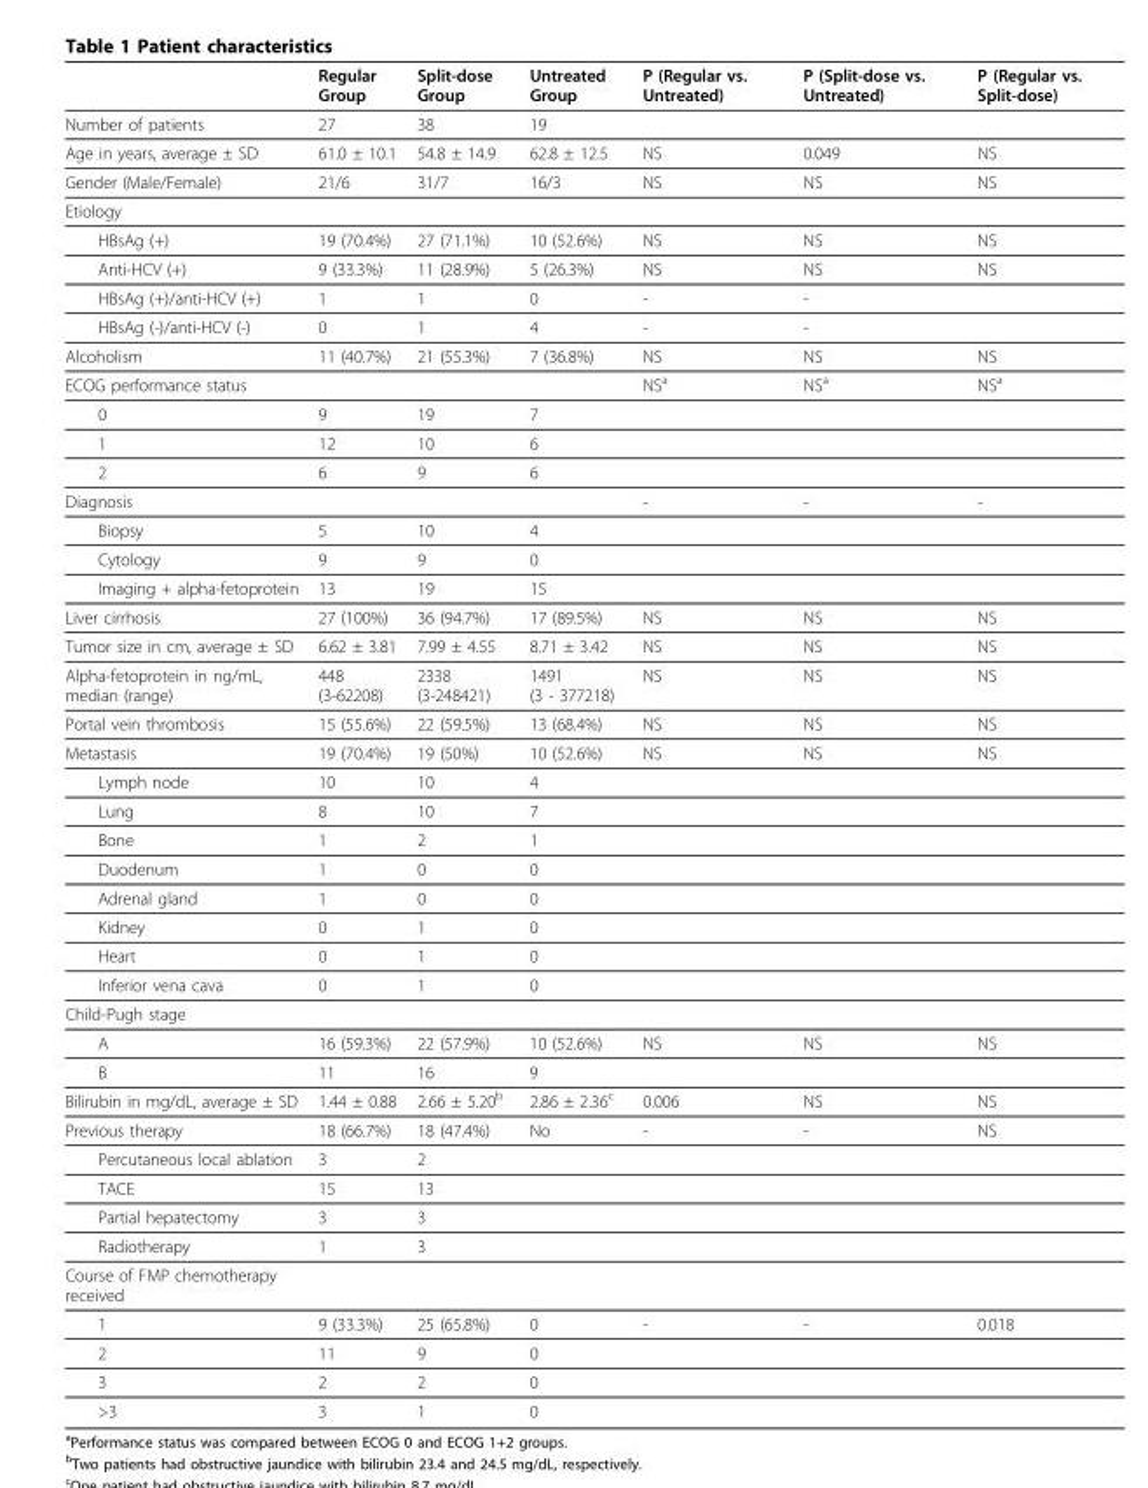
<table><thead><tr><td></td><td>Regular Group</td><td>Split-dose Group</td><td>Untreated Group</td><td>P (Regular vs. Untreated)</td><td>P (Split-dose vs. Untreated)</td><td>P (Regular vs. Split-dose)</td></tr></thead><tbody><tr><td>Number of patients</td><td>27</td><td>38</td><td>19</td><td></td><td></td><td></td></tr><tr><td>Age in years, average ± SD</td><td>61.0 ± 10.1</td><td>54.8 ± 14.9</td><td>62.8 ± 12.5</td><td>NS</td><td>0.049</td><td>NS</td></tr><tr><td>Gender (Male/Female)</td><td>21/6</td><td>31/7</td><td>16/3</td><td>NS</td><td>NS</td><td>NS</td></tr><tr><td colspan="7">Etiology</td></tr><tr><td>HBsAg (+)</td><td>19 (70.4%)</td><td>27 (71.1%)</td><td>10 (52.6%)</td><td>NS</td><td>NS</td><td>NS</td></tr><tr><td>Anti-HCV (+)</td><td>9 (33.3%)</td><td>11 (28.9%)</td><td>5 (26.3%)</td><td>NS</td><td>NS</td><td>NS</td></tr><tr><td>HBsAg (+)/anti-HCV (+)</td><td>1</td><td>1</td><td>0</td><td>-</td><td>-</td><td></td></tr><tr><td>HBsAg (-)/anti-HCV (-)</td><td>0</td><td>1</td><td>4</td><td>-</td><td>-</td><td></td></tr><tr><td>Alcoholism</td><td>11 (40.7%)</td><td>21 (55.3%)</td><td>7 (36.8%)</td><td>NS</td><td>NS</td><td>NS</td></tr><tr><td>ECOG performance status</td><td></td><td></td><td></td><td>NSa</td><td>NSa</td><td>NSa</td></tr><tr><td>0</td><td>9</td><td>19</td><td>7</td><td></td><td></td><td></td></tr><tr><td>1</td><td>12</td><td>10</td><td>6</td><td></td><td></td><td></td></tr><tr><td>2</td><td>6</td><td>9</td><td>6</td><td></td><td></td><td></td></tr><tr><td>Diagnosis</td><td></td><td></td><td></td><td>-</td><td>-</td><td>-</td></tr><tr><td>Biopsy</td><td>5</td><td>10</td><td>4</td><td></td><td></td><td></td></tr><tr><td>Cytology</td><td>9</td><td>9</td><td>0</td><td></td><td></td><td></td></tr><tr><td>Imaging + alpha-fetoprotein</td><td>13</td><td>19</td><td>15</td><td></td><td></td><td></td></tr><tr><td>Liver cirrhosis</td><td>27 (100%)</td><td>36 (94.7%)</td><td>17 (89.5%)</td><td>NS</td><td>NS</td><td>NS</td></tr><tr><td>Tumor size in cm, average ± SD</td><td>6.62 ± 3.81</td><td>7.99 ± 4.55</td><td>8.71 ± 3.42</td><td>NS</td><td>NS</td><td>NS</td></tr><tr><td>Alpha-fetoprotein in ng/mL, median (range)</td><td>448 (3-62208)</td><td>2338 (3-248421)</td><td>1491 (3 - 377218)</td><td>NS</td><td>NS</td><td>NS</td></tr><tr><td>Portal vein thrombosis</td><td>15 (55.6%)</td><td>22 (59.5%)</td><td>13 (68.4%)</td><td>NS</td><td>NS</td><td>NS</td></tr><tr><td>Metastasis</td><td>19 (70.4%)</td><td>19 (50%)</td><td>10 (52.6%)</td><td>NS</td><td>NS</td><td>NS</td></tr><tr><td>Lymph node</td><td>10</td><td>10</td><td>4</td><td></td><td></td><td></td></tr><tr><td>Lung</td><td>8</td><td>10</td><td>7</td><td></td><td></td><td></td></tr><tr><td>Bone</td><td>1</td><td>2</td><td>1</td><td></td><td></td><td></td></tr><tr><td>Duodenum</td><td>1</td><td>0</td><td>0</td><td></td><td></td><td></td></tr><tr><td>Adrenal gland</td><td>1</td><td>0</td><td>0</td><td></td><td></td><td></td></tr><tr><td>Kidney</td><td>0</td><td>1</td><td>0</td><td></td><td></td><td></td></tr><tr><td>Heart</td><td>0</td><td>1</td><td>0</td><td></td><td></td><td></td></tr><tr><td>Inferior vena cava</td><td>0</td><td>1</td><td>0</td><td></td><td></td><td></td></tr><tr><td colspan="7">Child-Pugh stage</td></tr><tr><td>A</td><td>16 (59.3%)</td><td>22 (57.9%)</td><td>10 (52.6%)</td><td>NS</td><td>NS</td><td>NS</td></tr><tr><td>B</td><td>11</td><td>16</td><td>9</td><td></td><td></td><td></td></tr><tr><td>Bilirubin in mg/dL, average ± SD</td><td>1.44 ± 0.88</td><td>2.66 ± 5.20b</td><td>2.86 ± 2.36c</td><td>0.006</td><td>NS</td><td>NS</td></tr><tr><td>Previous therapy</td><td>18 (66.7%)</td><td>18 (47.4%)</td><td>No</td><td>-</td><td>-</td><td>NS</td></tr><tr><td>Percutaneous local ablation</td><td>3</td><td>2</td><td></td><td></td><td></td><td></td></tr><tr><td>TACE</td><td>15</td><td>13</td><td></td><td></td><td></td><td></td></tr><tr><td>Partial hepatectomy</td><td>3</td><td>3</td><td></td><td></td><td></td><td></td></tr><tr><td>Radiotherapy</td><td>1</td><td>3</td><td></td><td></td><td></td><td></td></tr><tr><td colspan="7">Course of FMP chemotherapy received</td></tr><tr><td>1</td><td>9 (33.3%)</td><td>25 (65.8%)</td><td>0</td><td>-</td><td>-</td><td>0.018</td></tr><tr><td>2</td><td>11</td><td>9</td><td>0</td><td></td><td></td><td></td></tr><tr><td>3</td><td>2</td><td>2</td><td>0</td><td></td><td></td><td></td></tr><tr><td>&gt;3</td><td>3</td><td>1</td><td>0</td><td></td><td></td><td></td></tr></tbody></table>